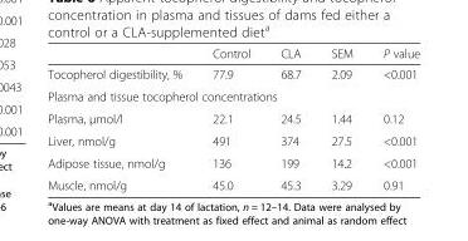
<table><thead><tr><td></td><td>Control</td><td>CLA</td><td>SEM</td><td>P value</td></tr></thead><tbody><tr><td>Tocopherol digestibility, %</td><td>77.9</td><td>68.7</td><td>2.09</td><td>&lt;0.001</td></tr><tr><td colspan="5">Plasma and tissue tocopherol concentrations</td></tr><tr><td>Plasma, μmol/l</td><td>22.1</td><td>24.5</td><td>1.44</td><td>0.12</td></tr><tr><td>Liver, nmol/g</td><td>491</td><td>374</td><td>27.5</td><td>&lt;0.001</td></tr><tr><td>Adipose tissue, nmol/g</td><td>136</td><td>199</td><td>14.2</td><td>&lt;0.001</td></tr><tr><td>Muscle, nmol/g</td><td>45.0</td><td>45.3</td><td>3.29</td><td>0.91</td></tr></tbody></table>